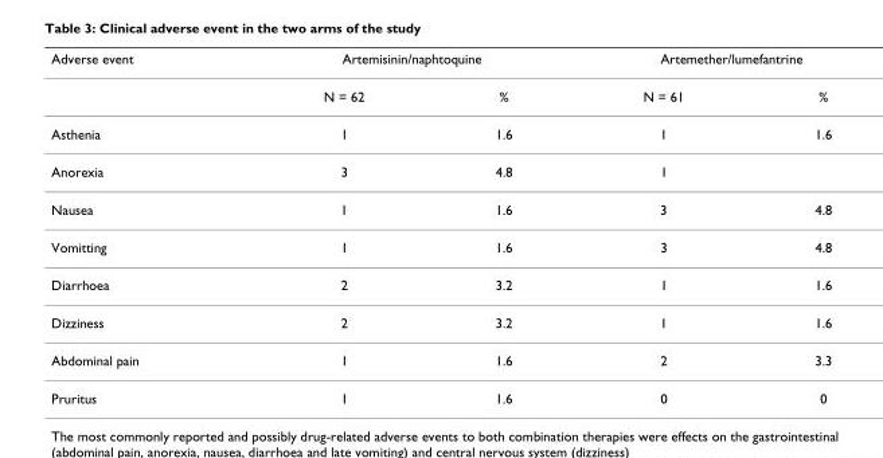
<table><thead><tr><td rowspan="2">Adverse event</td><td colspan="2">Artemisinin/naphtoquine</td><td colspan="2">Artemether/lumefantrine</td></tr><tr><td>N = 62</td><td>%</td><td>N = 61</td><td>%</td></tr></thead><tbody><tr><td>Asthenia</td><td>1</td><td>1.6</td><td>1</td><td>1.6</td></tr><tr><td>Anorexia</td><td>3</td><td>4.8</td><td>1</td><td></td></tr><tr><td>Nausea</td><td>1</td><td>1.6</td><td>3</td><td>4.8</td></tr><tr><td>Vomitting</td><td>1</td><td>1.6</td><td>3</td><td>4.8</td></tr><tr><td>Diarrhoea</td><td>2</td><td>3.2</td><td>1</td><td>1.6</td></tr><tr><td>Dizziness</td><td>2</td><td>3.2</td><td>1</td><td>1.6</td></tr><tr><td>Abdominal pain</td><td>1</td><td>1.6</td><td>2</td><td>3.3</td></tr><tr><td>Pruritus</td><td>1</td><td>1.6</td><td>0</td><td>0</td></tr></tbody></table>